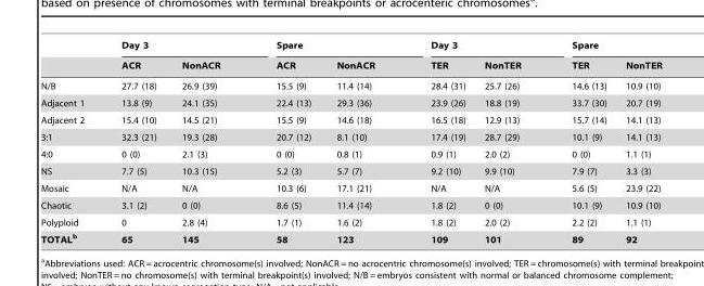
<table><thead><tr><td rowspan="2"></td><td colspan="2">Day 3</td><td colspan="2">Spare</td><td colspan="2">Day 3</td><td colspan="2">Spare</td></tr><tr><td>ACR</td><td>NonACR</td><td>ACR</td><td>NonACR</td><td>TER</td><td>NonTER</td><td>TER</td><td>NonTER</td></tr></thead><tbody><tr><td>N/B</td><td>27.7 (18)</td><td>26.9 (39)</td><td>15.5 (9)</td><td>11.4 (14)</td><td>28.4 (31)</td><td>25.7 (26)</td><td>14.6 (13)</td><td>10.9 (10)</td></tr><tr><td>Adjacent 1</td><td>13.8 (9)</td><td>24.1 (35)</td><td>22.4 (13)</td><td>29.3 (36)</td><td>23.9 (26)</td><td>18.8 (19)</td><td>33.7 (30)</td><td>20.7 (19)</td></tr><tr><td>Adjacent 2</td><td>15.4 (10)</td><td>14.5 (21)</td><td>15.5 (9)</td><td>14.6 (18)</td><td>16.5 (18)</td><td>12.9 (13)</td><td>15.7 (14)</td><td>14.1 (13)</td></tr><tr><td>3:1</td><td>32.3 (21)</td><td>19.3 (28)</td><td>20.7 (12)</td><td>8.1 (10)</td><td>17.4 (19)</td><td>28.7 (29)</td><td>10.1 (9)</td><td>14.1 (13)</td></tr><tr><td>4:0</td><td>0 (0)</td><td>2.1 (3)</td><td>0 (0)</td><td>0.8 (1)</td><td>0.9 (1)</td><td>2.0 (2)</td><td>0 (0)</td><td>1.1 (1)</td></tr><tr><td>NS</td><td>7.7 (5)</td><td>10.3 (15)</td><td>5.2 (3)</td><td>5.7 (7)</td><td>9.2 (10)</td><td>9.9 (10)</td><td>7.9 (7)</td><td>3.3 (3)</td></tr><tr><td>Mosaic</td><td>N/A</td><td>N/A</td><td>10.3 (6)</td><td>17.1 (21)</td><td>N/A</td><td>N/A</td><td>5.6 (5)</td><td>23.9 (22)</td></tr><tr><td>Chaotic</td><td>3.1 (2)</td><td>0 (0)</td><td>8.6 (5)</td><td>11.4 (14)</td><td>1.8 (2)</td><td>0 (0)</td><td>10.1 (9)</td><td>10.9 (10)</td></tr><tr><td>Polyploid</td><td>0</td><td>2.8 (4)</td><td>1.7 (1)</td><td>1.6 (2)</td><td>1.8 (2)</td><td>2.0 (2)</td><td>2.2 (2)</td><td>1.1 (1)</td></tr><tr><td>TOTALb</td><td>65</td><td>145</td><td>58</td><td>123</td><td>109</td><td>101</td><td>89</td><td>92</td></tr></tbody></table>